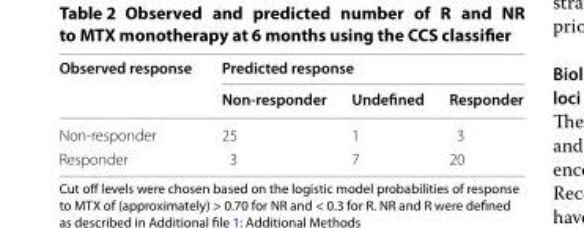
<table><thead><tr><td rowspan="2">Observed response</td><td colspan="3">Predicted response</td></tr><tr><td>Non-responder</td><td>Undefined</td><td>Responder</td></tr></thead><tbody><tr><td>Non-responder</td><td>25</td><td>1</td><td>3</td></tr><tr><td>Responder</td><td>3</td><td>7</td><td>20</td></tr></tbody></table>